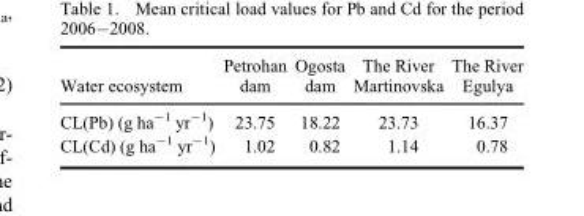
<table><thead><tr><td>Water ecosystem</td><td>Petrohan dam</td><td>Ogosta dam</td><td>The River Martinovska</td><td>The River Egulya</td></tr></thead><tbody><tr><td>CL(Pb) (g ha<sup>−1</sup> yr<sup>−1</sup>)</td><td>23.75</td><td>18.22</td><td>23.73</td><td>16.37</td></tr><tr><td>CL(Cd) (g ha<sup>−1</sup> yr<sup>−1</sup>)</td><td>1.02</td><td>0.82</td><td>1.14</td><td>0.78</td></tr></tbody></table>